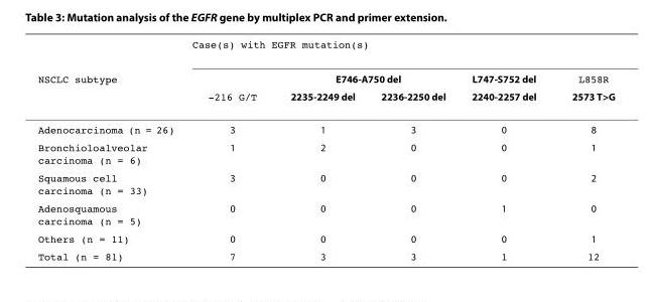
<table><thead><tr><td rowspan="3">NSCLC subtype</td><td colspan="5">Case(s) with EGFR mutation(s)</td></tr><tr><td rowspan="2">-216 G/T</td><td colspan="2">E746-A750 del</td><td rowspan="2">L747-S752 del 2240-2257 del</td><td rowspan="2">L858R 2573 T&gt;G</td></tr><tr><td>2235-2249 del</td><td>2236-2250 del</td></tr></thead><tbody><tr><td>Adenocarcinoma (n = 26)</td><td>3</td><td>1</td><td>3</td><td>0</td><td>8</td></tr><tr><td>Bronchioloalveolar carcinoma (n = 6)</td><td>1</td><td>2</td><td>0</td><td>0</td><td>1</td></tr><tr><td>Squamous cell carcinoma (n = 33)</td><td>3</td><td>0</td><td>0</td><td>0</td><td>2</td></tr><tr><td>Adenosquamous carcinoma (n = 5)</td><td>0</td><td>0</td><td>0</td><td>1</td><td>0</td></tr><tr><td>Others (n = 11)</td><td>0</td><td>0</td><td>0</td><td>0</td><td>1</td></tr><tr><td>Total (n = 81)</td><td>7</td><td>3</td><td>3</td><td>1</td><td>12</td></tr></tbody></table>